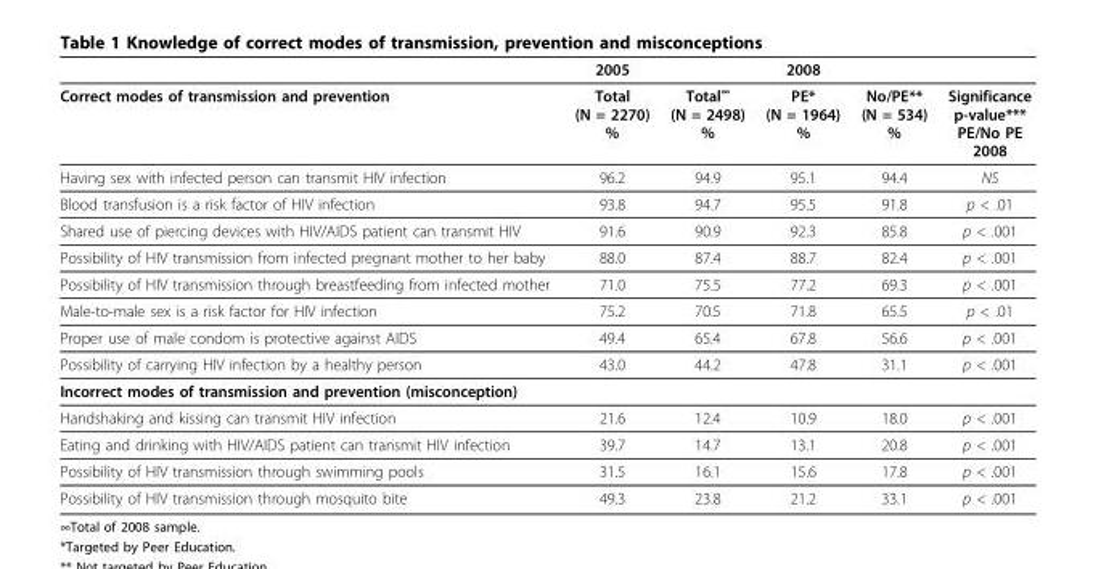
<table><thead><tr><td></td><td>2005</td><td></td><td>2008</td><td></td><td></td></tr></thead><tbody><tr><td>Correct modes of transmission and prevention</td><td>Total (N = 2270) %</td><td>Total<sup>∞</sup> (N = 2498) %</td><td>PE* (N = 1964) %</td><td>No/PE** (N = 534) %</td><td>Significance p-value*** PE/No PE 2008</td></tr><tr><td>Having sex with infected person can transmit HIV infection</td><td>96.2</td><td>94.9</td><td>95.1</td><td>94.4</td><td>NS</td></tr><tr><td>Blood transfusion is a risk factor of HIV infection</td><td>93.8</td><td>94.7</td><td>95.5</td><td>91.8</td><td>p &lt; .01</td></tr><tr><td>Shared use of piercing devices with HIV/AIDS patient can transmit HIV</td><td>91.6</td><td>90.9</td><td>92.3</td><td>85.8</td><td>p &lt; .001</td></tr><tr><td>Possibility of HIV transmission from infected pregnant mother to her baby</td><td>88.0</td><td>87.4</td><td>88.7</td><td>82.4</td><td>p &lt; .001</td></tr><tr><td>Possibility of HIV transmission through breastfeeding from infected mother</td><td>71.0</td><td>75.5</td><td>77.2</td><td>69.3</td><td>p &lt; .001</td></tr><tr><td>Male-to-male sex is a risk factor for HIV infection</td><td>75.2</td><td>70.5</td><td>71.8</td><td>65.5</td><td>p &lt; .01</td></tr><tr><td>Proper use of male condom is protective against AIDS</td><td>49.4</td><td>65.4</td><td>67.8</td><td>56.6</td><td>p &lt; .001</td></tr><tr><td>Possibility of carrying HIV infection by a healthy person</td><td>43.0</td><td>44.2</td><td>47.8</td><td>31.1</td><td>p &lt; .001</td></tr><tr><td colspan="6">Incorrect modes of transmission and prevention (misconception)</td></tr><tr><td>Handshaking and kissing can transmit HIV infection</td><td>21.6</td><td>12.4</td><td>10.9</td><td>18.0</td><td>p &lt; .001</td></tr><tr><td>Eating and drinking with HIV/AIDS patient can transmit HIV infection</td><td>39.7</td><td>14.7</td><td>13.1</td><td>20.8</td><td>p &lt; .001</td></tr><tr><td>Possibility of HIV transmission through swimming pools</td><td>31.5</td><td>16.1</td><td>15.6</td><td>17.8</td><td>p &lt; .001</td></tr><tr><td>Possibility of HIV transmission through mosquito bite</td><td>49.3</td><td>23.8</td><td>21.2</td><td>33.1</td><td>p &lt; .001</td></tr></tbody></table>